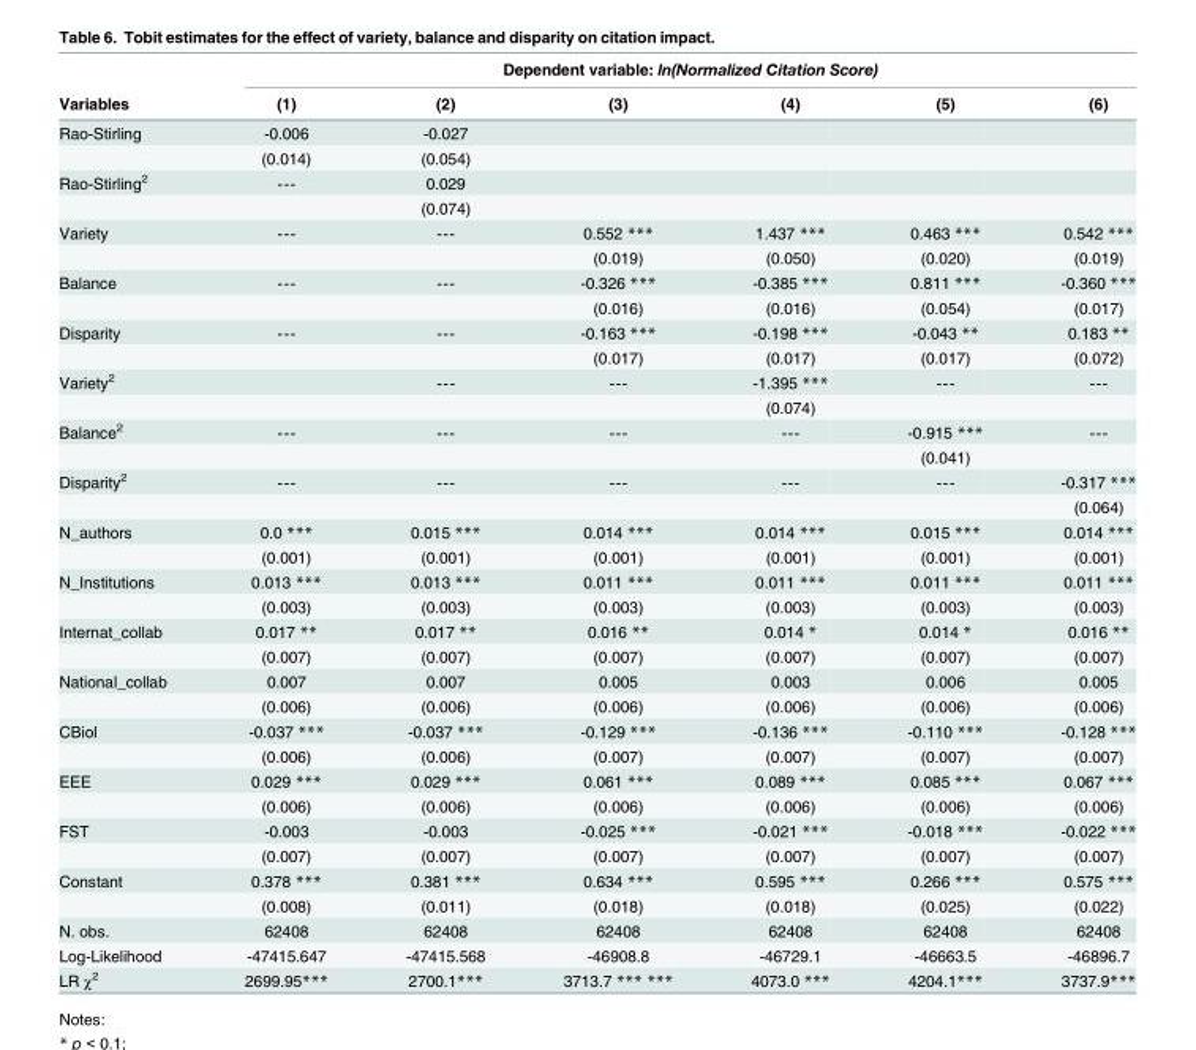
<table><thead><tr><td rowspan="2">Variables</td><td colspan="6">Dependent variable: ln(Normalized Citation Score)</td></tr><tr><td>(1)</td><td>(2)</td><td>(3)</td><td>(4)</td><td>(5)</td><td>(6)</td></tr></thead><tbody><tr><td rowspan="2">Rao-Stirling</td><td>-0.006</td><td>-0.027</td><td></td><td></td><td></td><td></td></tr><tr><td>(0.014)</td><td>(0.054)</td><td></td><td></td><td></td><td></td></tr><tr><td rowspan="2">Rao-Stirling<sup>2</sup></td><td>---</td><td>0.029</td><td></td><td></td><td></td><td></td></tr><tr><td></td><td>(0.074)</td><td></td><td></td><td></td><td></td></tr><tr><td rowspan="2">Variety</td><td>---</td><td>---</td><td>0.552 ***</td><td>1.437 ***</td><td>0.463 ***</td><td>0.542 ***</td></tr><tr><td></td><td></td><td>(0.019)</td><td>(0.050)</td><td>(0.020)</td><td>(0.019)</td></tr><tr><td rowspan="2">Balance</td><td>---</td><td>---</td><td>-0.326 ***</td><td>-0.385 ***</td><td>0.811 ***</td><td>-0.360 ***</td></tr><tr><td></td><td></td><td>(0.016)</td><td>(0.016)</td><td>(0.054)</td><td>(0.017)</td></tr><tr><td rowspan="2">Disparity</td><td>---</td><td>---</td><td>-0.163 ***</td><td>-0.198 ***</td><td>-0.043 **</td><td>0.183 **</td></tr><tr><td></td><td></td><td>(0.017)</td><td>(0.017)</td><td>(0.017)</td><td>(0.072)</td></tr><tr><td rowspan="2">Variety<sup>2</sup></td><td></td><td>---</td><td>---</td><td>-1.395 ***</td><td>---</td><td>---</td></tr><tr><td></td><td></td><td></td><td>(0.074)</td><td></td><td></td></tr><tr><td rowspan="2">Balance<sup>2</sup></td><td>---</td><td>---</td><td>---</td><td>---</td><td>-0.915 ***</td><td>---</td></tr><tr><td></td><td></td><td></td><td></td><td>(0.041)</td><td></td></tr><tr><td rowspan="2">Disparity<sup>2</sup></td><td>---</td><td>---</td><td>---</td><td>---</td><td>---</td><td>-0.317 ***</td></tr><tr><td></td><td></td><td></td><td></td><td></td><td>(0.064)</td></tr><tr><td rowspan="2">N_authors</td><td>0.0 ***</td><td>0.015 ***</td><td>0.014 ***</td><td>0.014 ***</td><td>0.015 ***</td><td>0.014 ***</td></tr><tr><td>(0.001)</td><td>(0.001)</td><td>(0.001)</td><td>(0.001)</td><td>(0.001)</td><td>(0.001)</td></tr><tr><td rowspan="2">N_Institutions</td><td>0.013 ***</td><td>0.013 ***</td><td>0.011 ***</td><td>0.011 ***</td><td>0.011 ***</td><td>0.011 ***</td></tr><tr><td>(0.003)</td><td>(0.003)</td><td>(0.003)</td><td>(0.003)</td><td>(0.003)</td><td>(0.003)</td></tr><tr><td rowspan="2">Internat_collab</td><td>0.017 **</td><td>0.017 **</td><td>0.016 **</td><td>0.014 *</td><td>0.014 *</td><td>0.016 **</td></tr><tr><td>(0.007)</td><td>(0.007)</td><td>(0.007)</td><td>(0.007)</td><td>(0.007)</td><td>(0.007)</td></tr><tr><td rowspan="2">National_collab</td><td>0.007</td><td>0.007</td><td>0.005</td><td>0.003</td><td>0.006</td><td>0.005</td></tr><tr><td>(0.006)</td><td>(0.006)</td><td>(0.006)</td><td>(0.006)</td><td>(0.006)</td><td>(0.006)</td></tr><tr><td rowspan="2">CBiol</td><td>-0.037 ***</td><td>-0.037 ***</td><td>-0.129 ***</td><td>-0.136 ***</td><td>-0.110 ***</td><td>-0.128 ***</td></tr><tr><td>(0.006)</td><td>(0.006)</td><td>(0.007)</td><td>(0.007)</td><td>(0.007)</td><td>(0.007)</td></tr><tr><td rowspan="2">EEE</td><td>0.029 ***</td><td>0.029 ***</td><td>0.061 ***</td><td>0.089 ***</td><td>0.085 ***</td><td>0.067 ***</td></tr><tr><td>(0.006)</td><td>(0.006)</td><td>(0.006)</td><td>(0.006)</td><td>(0.006)</td><td>(0.006)</td></tr><tr><td rowspan="2">FST</td><td>-0.003</td><td>-0.003</td><td>-0.025 ***</td><td>-0.021 ***</td><td>-0.018 ***</td><td>-0.022 ***</td></tr><tr><td>(0.007)</td><td>(0.007)</td><td>(0.007)</td><td>(0.007)</td><td>(0.007)</td><td>(0.007)</td></tr><tr><td rowspan="2">Constant</td><td>0.378 ***</td><td>0.381 ***</td><td>0.634 ***</td><td>0.595 ***</td><td>0.266 ***</td><td>0.575 ***</td></tr><tr><td>(0.008)</td><td>(0.011)</td><td>(0.018)</td><td>(0.018)</td><td>(0.025)</td><td>(0.022)</td></tr><tr><td>N. obs.</td><td>62408</td><td>62408</td><td>62408</td><td>62408</td><td>62408</td><td>62408</td></tr><tr><td>Log-Likelihood</td><td>-47415.647</td><td>-47415.568</td><td>-46908.8</td><td>-46729.1</td><td>-46663.5</td><td>-46896.7</td></tr><tr><td>LR χ<sup>2</sup></td><td>2699.95***</td><td>2700.1***</td><td>3713.7 *** ***</td><td>4073.0 ***</td><td>4204.1***</td><td>3737.9***</td></tr></tbody></table>